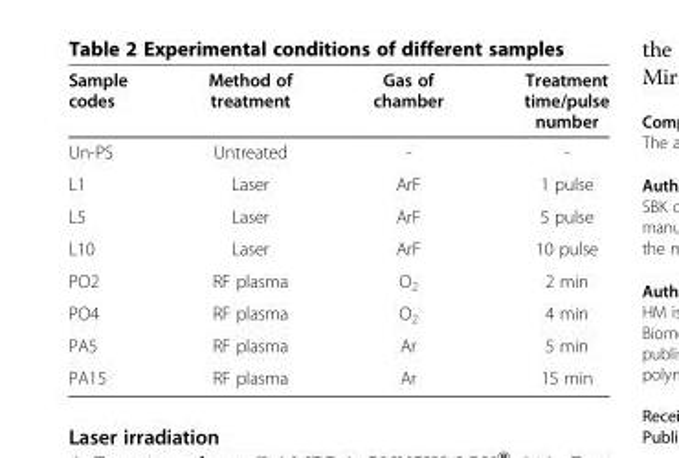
<table><thead><tr><td>Sample codes</td><td>Method of treatment</td><td>Gas of chamber</td><td>Treatment time/pulse number</td></tr></thead><tbody><tr><td>Un-PS</td><td>Untreated</td><td>-</td><td>-</td></tr><tr><td>L1</td><td>Laser</td><td>ArF</td><td>1 pulse</td></tr><tr><td>L5</td><td>Laser</td><td>ArF</td><td>5 pulse</td></tr><tr><td>L10</td><td>Laser</td><td>ArF</td><td>10 pulse</td></tr><tr><td>PO2</td><td>RF plasma</td><td>O<sub>2</sub></td><td>2 min</td></tr><tr><td>PO4</td><td>RF plasma</td><td>O<sub>2</sub></td><td>4 min</td></tr><tr><td>PA5</td><td>RF plasma</td><td>Ar</td><td>5 min</td></tr><tr><td>PA15</td><td>RF plasma</td><td>Ar</td><td>15 min</td></tr></tbody></table>